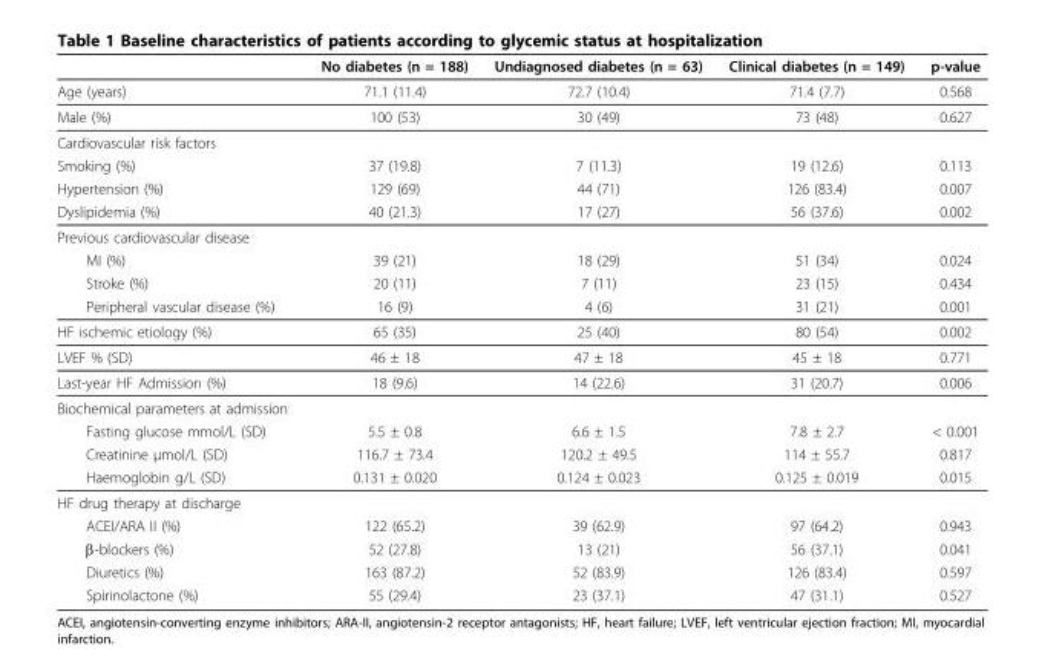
<table><thead><tr><td></td><td>No diabetes (n = 188)</td><td>Undiagnosed diabetes (n = 63)</td><td>Clinical diabetes (n = 149)</td><td>p-value</td></tr></thead><tbody><tr><td>Age (years)</td><td>71.1 (11.4)</td><td>72.7 (10.4)</td><td>71.4 (7.7)</td><td>0.568</td></tr><tr><td>Male (%)</td><td>100 (53)</td><td>30 (49)</td><td>73 (48)</td><td>0.627</td></tr><tr><td colspan="5">Cardiovascular risk factors</td></tr><tr><td>Smoking (%)</td><td>37 (19.8)</td><td>7 (11.3)</td><td>19 (12.6)</td><td>0.113</td></tr><tr><td>Hypertension (%)</td><td>129 (69)</td><td>44 (71)</td><td>126 (83.4)</td><td>0.007</td></tr><tr><td>Dyslipidemia (%)</td><td>40 (21.3)</td><td>17 (27)</td><td>56 (37.6)</td><td>0.002</td></tr><tr><td colspan="5">Previous cardiovascular disease</td></tr><tr><td>MI (%)</td><td>39 (21)</td><td>18 (29)</td><td>51 (34)</td><td>0.024</td></tr><tr><td>Stroke (%)</td><td>20 (11)</td><td>7 (11)</td><td>23 (15)</td><td>0.434</td></tr><tr><td>Peripheral vascular disease (%)</td><td>16 (9)</td><td>4 (6)</td><td>31 (21)</td><td>0.001</td></tr><tr><td>HF ischemic etiology (%)</td><td>65 (35)</td><td>25 (40)</td><td>80 (54)</td><td>0.002</td></tr><tr><td>LVEF % (SD)</td><td>46 ± 18</td><td>47 ± 18</td><td>45 ± 18</td><td>0.771</td></tr><tr><td>Last-year HF Admission (%)</td><td>18 (9.6)</td><td>14 (22.6)</td><td>31 (20.7)</td><td>0.006</td></tr><tr><td colspan="5">Biochemical parameters at admission</td></tr><tr><td>Fasting glucose mmol/L (SD)</td><td>5.5 ± 0.8</td><td>6.6 ± 1.5</td><td>7.8 ± 2.7</td><td>&lt; 0.001</td></tr><tr><td>Creatinine μmol/L (SD)</td><td>116.7 ± 73.4</td><td>120.2 ± 49.5</td><td>114 ± 55.7</td><td>0.817</td></tr><tr><td>Haemoglobin g/L (SD)</td><td>0.131 ± 0.020</td><td>0.124 ± 0.023</td><td>0.125 ± 0.019</td><td>0.015</td></tr><tr><td colspan="5">HF drug therapy at discharge</td></tr><tr><td>ACEI/ARA II (%)</td><td>122 (65.2)</td><td>39 (62.9)</td><td>97 (64.2)</td><td>0.943</td></tr><tr><td>β-blockers (%)</td><td>52 (27.8)</td><td>13 (21)</td><td>56 (37.1)</td><td>0.041</td></tr><tr><td>Diuretics (%)</td><td>163 (87.2)</td><td>52 (83.9)</td><td>126 (83.4)</td><td>0.597</td></tr><tr><td>Spirinolactone (%)</td><td>55 (29.4)</td><td>23 (37.1)</td><td>47 (31.1)</td><td>0.527</td></tr></tbody></table>